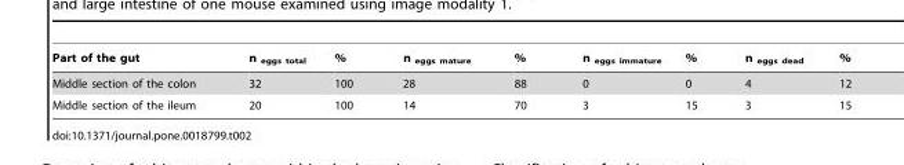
<table><thead><tr><td>Part of the gut</td><td>n <sub>eggs total</sub></td><td>%</td><td>n <sub>eggs mature</sub></td><td>%</td><td>n <sub>eggs immature</sub></td><td>%</td><td>n <sub>eggs dead</sub></td><td>%</td></tr></thead><tbody><tr><td>Middle section of the colon</td><td>32</td><td>100</td><td>28</td><td>88</td><td>0</td><td>0</td><td>4</td><td>12</td></tr><tr><td>Middle section of the ileum</td><td>20</td><td>100</td><td>14</td><td>70</td><td>3</td><td>15</td><td>3</td><td>15</td></tr></tbody></table>